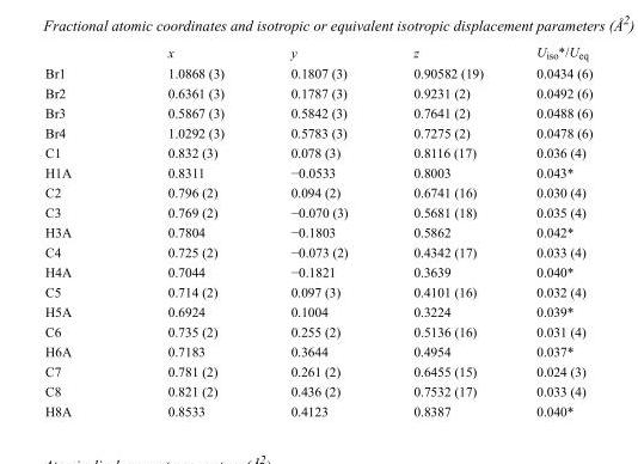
<table><thead><tr><td></td><td>x</td><td>y</td><td>z</td><td>U<sub>iso</sub>*/U<sub>eq</sub></td></tr></thead><tbody><tr><td>Br1</td><td>1.0868 (3)</td><td>0.1807 (3)</td><td>0.90582 (19)</td><td>0.0434 (6)</td></tr><tr><td>Br2</td><td>0.6361 (3)</td><td>0.1787 (3)</td><td>0.9231 (2)</td><td>0.0492 (6)</td></tr><tr><td>Br3</td><td>0.5867 (3)</td><td>0.5842 (3)</td><td>0.7641 (2)</td><td>0.0488 (6)</td></tr><tr><td>Br4</td><td>1.0292 (3)</td><td>0.5783 (3)</td><td>0.7275 (2)</td><td>0.0478 (6)</td></tr><tr><td>C1</td><td>0.832 (3)</td><td>0.078 (3)</td><td>0.8116 (17)</td><td>0.036 (4)</td></tr><tr><td>H1A</td><td>0.8311</td><td>−0.0533</td><td>0.8003</td><td>0.043*</td></tr><tr><td>C2</td><td>0.796 (2)</td><td>0.094 (2)</td><td>0.6741 (16)</td><td>0.030 (4)</td></tr><tr><td>C3</td><td>0.769 (2)</td><td>−0.070 (3)</td><td>0.5681 (18)</td><td>0.035 (4)</td></tr><tr><td>H3A</td><td>0.7804</td><td>−0.1803</td><td>0.5862</td><td>0.042*</td></tr><tr><td>C4</td><td>0.725 (2)</td><td>−0.073 (2)</td><td>0.4342 (17)</td><td>0.033 (4)</td></tr><tr><td>H4A</td><td>0.7044</td><td>−0.1821</td><td>0.3639</td><td>0.040*</td></tr><tr><td>C5</td><td>0.714 (2)</td><td>0.097 (3)</td><td>0.4101 (16)</td><td>0.032 (4)</td></tr><tr><td>H5A</td><td>0.6924</td><td>0.1004</td><td>0.3224</td><td>0.039*</td></tr><tr><td>C6</td><td>0.735 (2)</td><td>0.255 (2)</td><td>0.5136 (16)</td><td>0.031 (4)</td></tr><tr><td>H6A</td><td>0.7183</td><td>0.3644</td><td>0.4954</td><td>0.037*</td></tr><tr><td>C7</td><td>0.781 (2)</td><td>0.261 (2)</td><td>0.6455 (15)</td><td>0.024 (3)</td></tr><tr><td>C8</td><td>0.821 (2)</td><td>0.436 (2)</td><td>0.7532 (17)</td><td>0.033 (4)</td></tr><tr><td>H8A</td><td>0.8533</td><td>0.4123</td><td>0.8387</td><td>0.040*</td></tr></tbody></table>